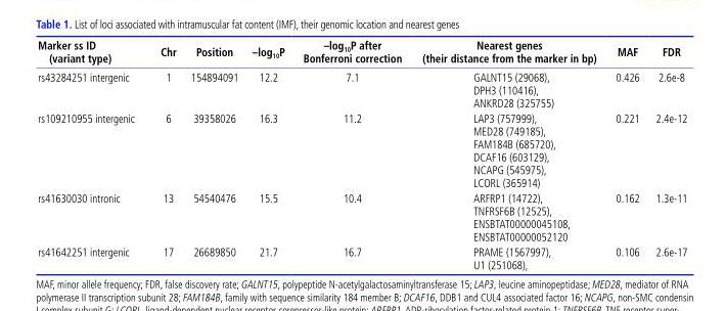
<table><thead><tr><td>Marker ss ID (variant type)</td><td>Chr</td><td>Position</td><td>–log<sub>10</sub>P</td><td>–log<sub>10</sub>P after Bonferroni correction</td><td>Nearest genes (their distance from the marker in bp)</td><td>MAF</td><td>FDR</td></tr></thead><tbody><tr><td>rs43284251 intergenic</td><td>1</td><td>154894091</td><td>12.2</td><td>7.1</td><td>GALNT15 (29068), DPH3 (110416), ANKRD28 (325755)</td><td>0.426</td><td>2.6e-8</td></tr><tr><td>rs109210955 intergenic</td><td>6</td><td>39358026</td><td>16.3</td><td>11.2</td><td>LAP3 (757999), MED28 (749185), FAM184B (685720), DCAF16 (603129), NCAPG (545975), LCORL (365914)</td><td>0.221</td><td>2.4e-12</td></tr><tr><td>rs41630030 intronic</td><td>13</td><td>54540476</td><td>15.5</td><td>10.4</td><td>ARFRP1 (14722), TNFRSF6B (12525), ENSBTAT00000045108, ENSBTAT00000052120</td><td>0.162</td><td>1.3e-11</td></tr><tr><td>rs41642251 intergenic</td><td>17</td><td>26689850</td><td>21.7</td><td>16.7</td><td>PRAME (1567997), U1 (251068),</td><td>0.106</td><td>2.6e-17</td></tr></tbody></table>